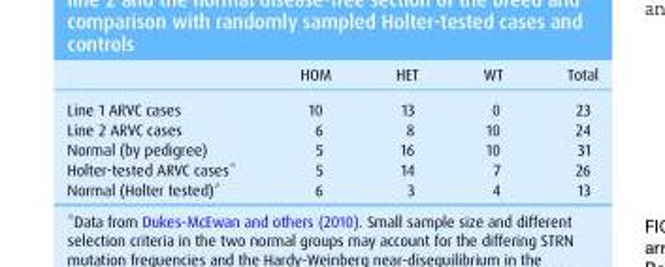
<table><thead><tr><td></td><td>HOM</td><td>HET</td><td>WT</td><td>Total</td></tr></thead><tbody><tr><td>Line 1 ARVC cases</td><td>10</td><td>13</td><td>0</td><td>23</td></tr><tr><td>Line 2 ARVC cases</td><td>6</td><td>8</td><td>10</td><td>24</td></tr><tr><td>Normal (by pedigree)</td><td>5</td><td>16</td><td>10</td><td>31</td></tr><tr><td>Holter-tested ARVC cases*</td><td>5</td><td>14</td><td>7</td><td>26</td></tr><tr><td>Normal (Holter tested)*</td><td>6</td><td>3</td><td>4</td><td>13</td></tr></tbody></table>